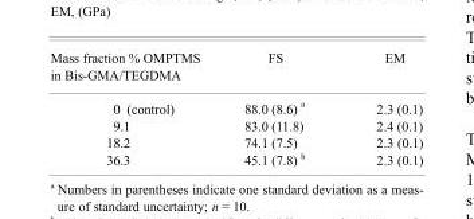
<table><thead><tr><td>Mass fraction % OMPTMS in Bis-GMA/TEGDMA</td><td>FS</td><td>EM</td></tr></thead><tbody><tr><td>0 (control)</td><td>88.0 (8.6) <sup>a</sup></td><td>2.3 (0.1)</td></tr><tr><td>9.1</td><td>83.0 (11.8)</td><td>2.4 (0.1)</td></tr><tr><td>18.2</td><td>74.1 (7.5)</td><td>2.3 (0.1)</td></tr><tr><td>36.3</td><td>45.1 (7.8) <sup>b</sup></td><td>2.3 (0.1)</td></tr></tbody></table>